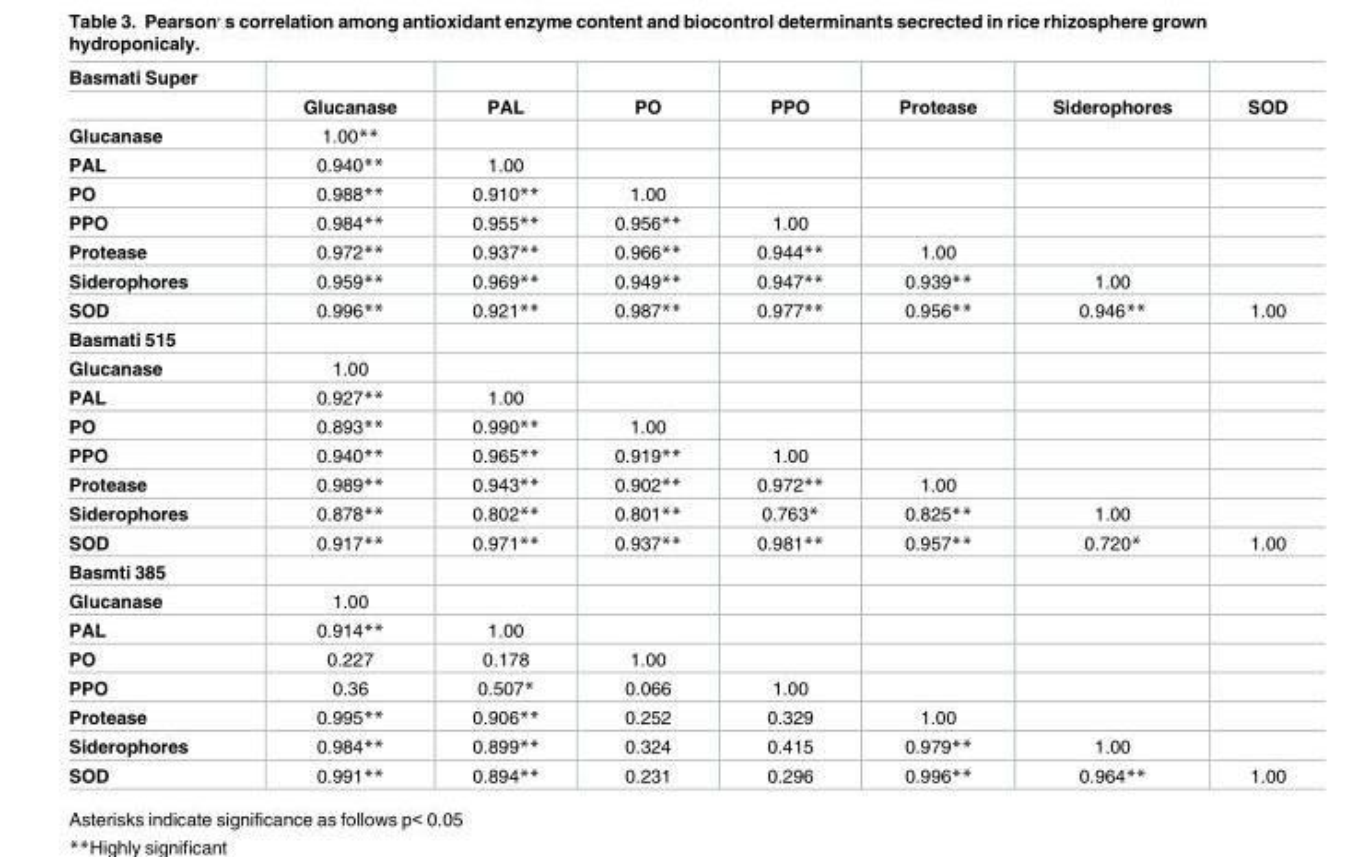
<table><thead><tr><td rowspan="2">Basmati Super</td><td rowspan="2">Glucanase</td><td rowspan="2">PAL</td><td rowspan="2">PO</td><td rowspan="2">PPO</td><td rowspan="2">Protease</td><td rowspan="2">Siderophores</td><td rowspan="2">SOD</td></tr><tr></tr></thead><tbody><tr><td>Glucanase</td><td>1.00**</td><td></td><td></td><td></td><td></td><td></td><td></td></tr><tr><td>PAL</td><td>0.940**</td><td>1.00</td><td></td><td></td><td></td><td></td><td></td></tr><tr><td>PO</td><td>0.988**</td><td>0.910**</td><td>1.00</td><td></td><td></td><td></td><td></td></tr><tr><td>PPO</td><td>0.984**</td><td>0.955**</td><td>0.956**</td><td>1.00</td><td></td><td></td><td></td></tr><tr><td>Protease</td><td>0.972**</td><td>0.937**</td><td>0.966**</td><td>0.944**</td><td>1.00</td><td></td><td></td></tr><tr><td>Siderophores</td><td>0.959**</td><td>0.969**</td><td>0.949**</td><td>0.947**</td><td>0.939**</td><td>1.00</td><td></td></tr><tr><td>SOD</td><td>0.996**</td><td>0.921**</td><td>0.987**</td><td>0.977**</td><td>0.956**</td><td>0.946**</td><td>1.00</td></tr><tr><td colspan="8">Basmati 515</td></tr><tr><td>Glucanase</td><td>1.00</td><td></td><td></td><td></td><td></td><td></td><td></td></tr><tr><td>PAL</td><td>0.927**</td><td>1.00</td><td></td><td></td><td></td><td></td><td></td></tr><tr><td>PO</td><td>0.893**</td><td>0.990**</td><td>1.00</td><td></td><td></td><td></td><td></td></tr><tr><td>PPO</td><td>0.940**</td><td>0.965**</td><td>0.919**</td><td>1.00</td><td></td><td></td><td></td></tr><tr><td>Protease</td><td>0.989**</td><td>0.943**</td><td>0.902**</td><td>0.972**</td><td>1.00</td><td></td><td></td></tr><tr><td>Siderophores</td><td>0.878**</td><td>0.802**</td><td>0.801**</td><td>0.763*</td><td>0.825**</td><td>1.00</td><td></td></tr><tr><td>SOD</td><td>0.917**</td><td>0.971**</td><td>0.937**</td><td>0.981**</td><td>0.957**</td><td>0.720*</td><td>1.00</td></tr><tr><td colspan="8">Basmti 385</td></tr><tr><td>Glucanase</td><td>1.00</td><td></td><td></td><td></td><td></td><td></td><td></td></tr><tr><td>PAL</td><td>0.914**</td><td>1.00</td><td></td><td></td><td></td><td></td><td></td></tr><tr><td>PO</td><td>0.227</td><td>0.178</td><td>1.00</td><td></td><td></td><td></td><td></td></tr><tr><td>PPO</td><td>0.36</td><td>0.507*</td><td>0.066</td><td>1.00</td><td></td><td></td><td></td></tr><tr><td>Protease</td><td>0.995**</td><td>0.906**</td><td>0.252</td><td>0.329</td><td>1.00</td><td></td><td></td></tr><tr><td>Siderophores</td><td>0.984**</td><td>0.899**</td><td>0.324</td><td>0.415</td><td>0.979**</td><td>1.00</td><td></td></tr><tr><td>SOD</td><td>0.991**</td><td>0.894**</td><td>0.231</td><td>0.296</td><td>0.996**</td><td>0.964**</td><td>1.00</td></tr></tbody></table>